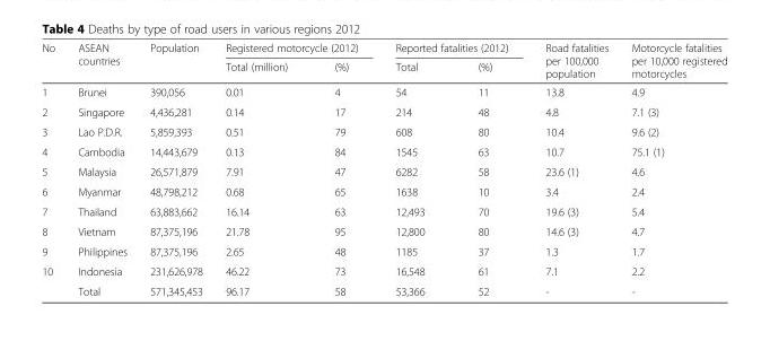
<table><thead><tr><td rowspan="2">No</td><td rowspan="2">ASEAN countries</td><td rowspan="2">Population</td><td colspan="2">Registered motorcycle (2012)</td><td colspan="2">Reported fatalities (2012)</td><td rowspan="2">Road fatalities per 100,000 population</td><td rowspan="2">Motorcycle fatalities per 10,000 registered motorcycles</td></tr><tr><td>Total (million)</td><td>(%)</td><td>Total</td><td>(%)</td></tr></thead><tbody><tr><td>1</td><td>Brunei</td><td>390,056</td><td>0.01</td><td>4</td><td>54</td><td>11</td><td>13.8</td><td>4.9</td></tr><tr><td>2</td><td>Singapore</td><td>4,436,281</td><td>0.14</td><td>17</td><td>214</td><td>48</td><td>4.8</td><td>7.1 (3)</td></tr><tr><td>3</td><td>Lao P.D.R.</td><td>5,859,393</td><td>0.51</td><td>79</td><td>608</td><td>80</td><td>10.4</td><td>9.6 (2)</td></tr><tr><td>4</td><td>Cambodia</td><td>14,443,679</td><td>0.13</td><td>84</td><td>1545</td><td>63</td><td>10.7</td><td>75.1 (1)</td></tr><tr><td>5</td><td>Malaysia</td><td>26,571,879</td><td>7.91</td><td>47</td><td>6282</td><td>58</td><td>23.6 (1)</td><td>4.6</td></tr><tr><td>6</td><td>Myanmar</td><td>48,798,212</td><td>0.68</td><td>65</td><td>1638</td><td>10</td><td>3.4</td><td>2.4</td></tr><tr><td>7</td><td>Thailand</td><td>63,883,662</td><td>16.14</td><td>63</td><td>12,493</td><td>70</td><td>19.6 (3)</td><td>5.4</td></tr><tr><td>8</td><td>Vietnam</td><td>87,375,196</td><td>21.78</td><td>95</td><td>12,800</td><td>80</td><td>14.6 (3)</td><td>4.7</td></tr><tr><td>9</td><td>Philippines</td><td>87,375,196</td><td>2.65</td><td>48</td><td>1185</td><td>37</td><td>1.3</td><td>1.7</td></tr><tr><td rowspan="2">10</td><td>Indonesia</td><td>231,626,978</td><td>46.22</td><td>73</td><td>16,548</td><td>61</td><td>7.1</td><td>2.2</td></tr><tr><td>Total</td><td>571,345,453</td><td>96.17</td><td>58</td><td>53,366</td><td>52</td><td>-</td><td>-</td></tr></tbody></table>